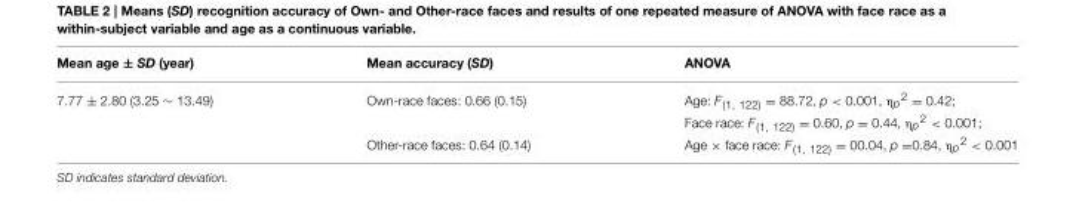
<table><thead><tr><td>Mean age ± SD (year)</td><td>Mean accuracy (SD)</td><td>ANOVA</td></tr></thead><tbody><tr><td rowspan="3">7.77 ± 2.80 (3.25 ∼ 13.49)</td><td>Own-race faces: 0.66 (0.15)</td><td>Age: F<sub>(1, 122)</sub> = 88.72, p &lt; 0.001, ηp<sup>2</sup> = 0.42;</td></tr><tr><td></td><td>Face race: F<sub>(1, 122)</sub> = 0.60, p = 0.44, ηp<sup>2</sup> &lt; 0.001;</td></tr><tr><td>Other-race faces: 0.64 (0.14)</td><td>Age × face race: F<sub>(1, 122)</sub> = 00.04, p =0.84, ηp<sup>2</sup> &lt; 0.001</td></tr></tbody></table>